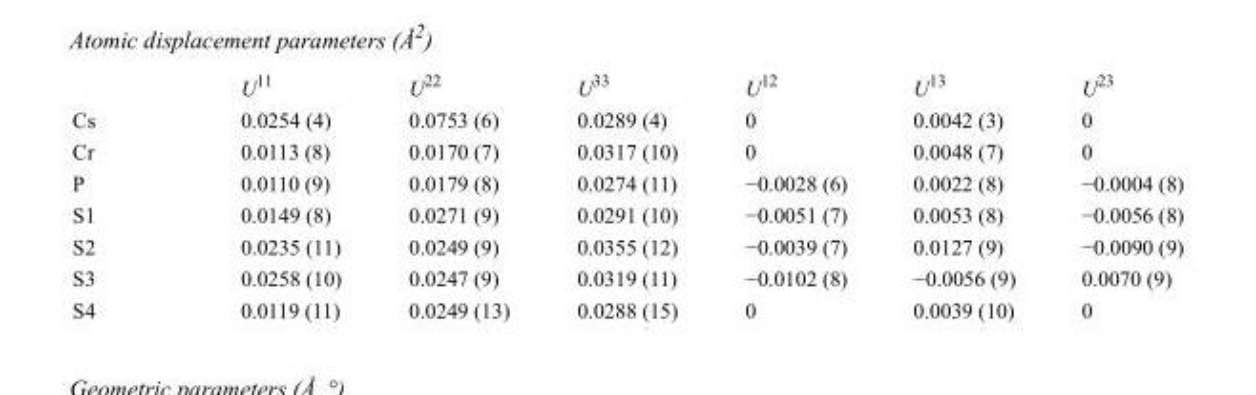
<table><thead><tr><td></td><td>U<sup>11</sup></td><td>U<sup>22</sup></td><td>U<sup>33</sup></td><td>U<sup>12</sup></td><td>U<sup>13</sup></td><td>U<sup>23</sup></td></tr></thead><tbody><tr><td>Cs</td><td>0.0254 (4)</td><td>0.0753 (6)</td><td>0.0289 (4)</td><td>0</td><td>0.0042 (3)</td><td>0</td></tr><tr><td>Cr</td><td>0.0113 (8)</td><td>0.0170 (7)</td><td>0.0317 (10)</td><td>0</td><td>0.0048 (7)</td><td>0</td></tr><tr><td>P</td><td>0.0110 (9)</td><td>0.0179 (8)</td><td>0.0274 (11)</td><td>−0.0028 (6)</td><td>0.0022 (8)</td><td>−0.0004 (8)</td></tr><tr><td>S1</td><td>0.0149 (8)</td><td>0.0271 (9)</td><td>0.0291 (10)</td><td>−0.0051 (7)</td><td>0.0053 (8)</td><td>−0.0056 (8)</td></tr><tr><td>S2</td><td>0.0235 (11)</td><td>0.0249 (9)</td><td>0.0355 (12)</td><td>−0.0039 (7)</td><td>0.0127 (9)</td><td>−0.0090 (9)</td></tr><tr><td>S3</td><td>0.0258 (10)</td><td>0.0247 (9)</td><td>0.0319 (11)</td><td>−0.0102 (8)</td><td>−0.0056 (9)</td><td>0.0070 (9)</td></tr><tr><td>S4</td><td>0.0119 (11)</td><td>0.0249 (13)</td><td>0.0288 (15)</td><td>0</td><td>0.0039 (10)</td><td>0</td></tr></tbody></table>